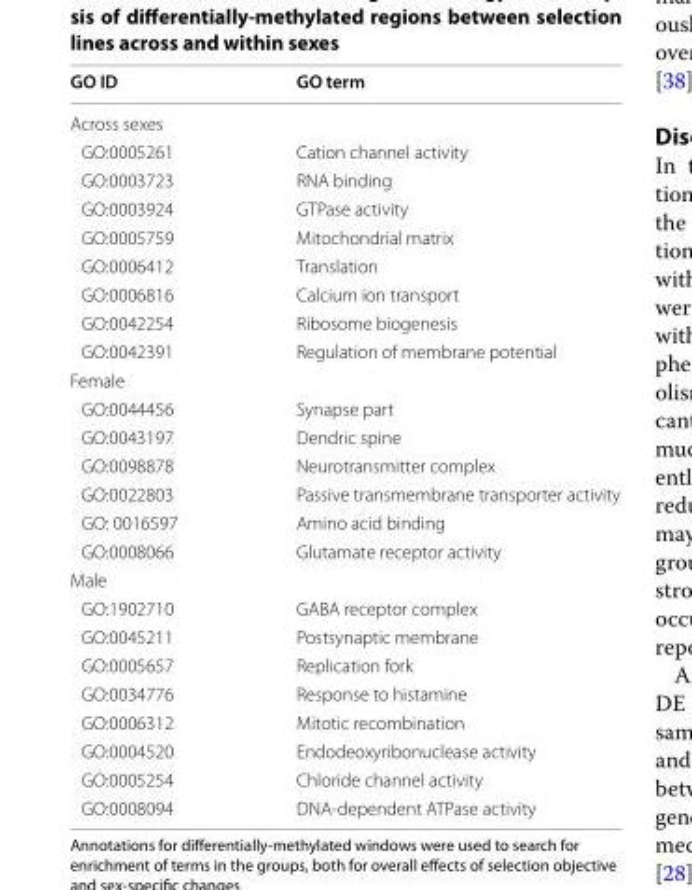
<table><thead><tr><td>GO ID</td><td>GO term</td></tr></thead><tbody><tr><td colspan="2">Across sexes</td></tr><tr><td>GO:0005261</td><td>Cation channel activity</td></tr><tr><td>GO:0003723</td><td>RNA binding</td></tr><tr><td>GO:0003924</td><td>GTPase activity</td></tr><tr><td>GO:0005759</td><td>Mitochondrial matrix</td></tr><tr><td>GO:0006412</td><td>Translation</td></tr><tr><td>GO:0006816</td><td>Calcium ion transport</td></tr><tr><td>GO:0042254</td><td>Ribosome biogenesis</td></tr><tr><td>GO:0042391</td><td>Regulation of membrane potential</td></tr><tr><td colspan="2">Female</td></tr><tr><td>GO:0044456</td><td>Synapse part</td></tr><tr><td>GO:0043197</td><td>Dendric spine</td></tr><tr><td>GO:0098878</td><td>Neurotransmitter complex</td></tr><tr><td>GO:0022803</td><td>Passive transmembrane transporter activity</td></tr><tr><td>GO: 0016597</td><td>Amino acid binding</td></tr><tr><td>GO:0008066</td><td>Glutamate receptor activity</td></tr><tr><td colspan="2">Male</td></tr><tr><td>GO:1902710</td><td>GABA receptor complex</td></tr><tr><td>GO:0045211</td><td>Postsynaptic membrane</td></tr><tr><td>GO:0005657</td><td>Replication fork</td></tr><tr><td>GO:0034776</td><td>Response to histamine</td></tr><tr><td>GO:0006312</td><td>Mitotic recombination</td></tr><tr><td>GO:0004520</td><td>Endodeoxyribonuclease activity</td></tr><tr><td>GO:0005254</td><td>Chloride channel activity</td></tr><tr><td>GO:0008094</td><td>DNA‑dependent ATPase activity</td></tr></tbody></table>